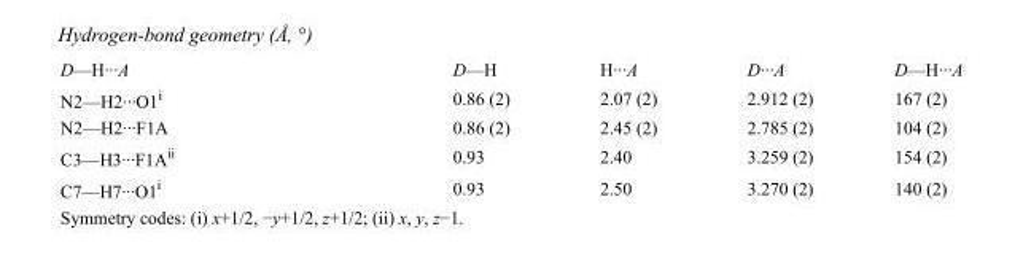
<table><tbody><tr><td>D—H···A</td><td>D—H</td><td>H···A</td><td>D···A</td><td>D—H···A</td></tr><tr><td>N2—H2···O1<sup>i</sup></td><td>0.86 (2)</td><td>2.07 (2)</td><td>2.912 (2)</td><td>167 (2)</td></tr><tr><td>N2—H2···F1A</td><td>0.86 (2)</td><td>2.45 (2)</td><td>2.785 (2)</td><td>104 (2)</td></tr><tr><td>C3—H3···F1A<sup>ii</sup></td><td>0.93</td><td>2.40</td><td>3.259 (2)</td><td>154 (2)</td></tr><tr><td>C7—H7···O1<sup>i</sup></td><td>0.93</td><td>2.50</td><td>3.270 (2)</td><td>140 (2)</td></tr></tbody></table>